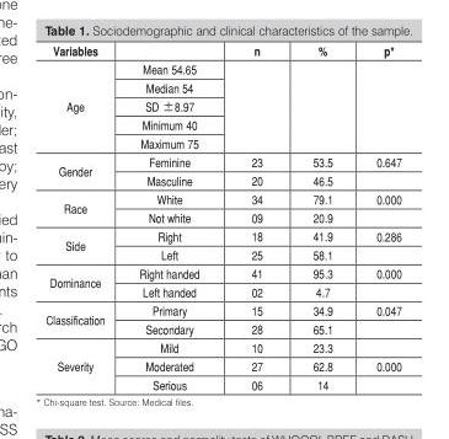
<table><thead><tr><td>Variables</td><td></td><td>n</td><td>%</td><td>p*</td></tr></thead><tbody><tr><td rowspan="5">Age</td><td>Mean 54.65</td><td rowspan="5"></td><td rowspan="5"></td><td rowspan="5"></td></tr><tr><td>Median 54</td></tr><tr><td>SD ±8.97</td></tr><tr><td>Minimum 40</td></tr><tr><td>Maximum 75</td></tr><tr><td rowspan="2">Gender</td><td>Feminine</td><td>23</td><td>53.5</td><td>0.647</td></tr><tr><td>Masculine</td><td>20</td><td>46.5</td><td></td></tr><tr><td rowspan="2">Race</td><td>White</td><td>34</td><td>79.1</td><td>0.000</td></tr><tr><td>Not white</td><td>09</td><td>20.9</td><td></td></tr><tr><td rowspan="2">Side</td><td>Right</td><td>18</td><td>41.9</td><td>0.286</td></tr><tr><td>Left</td><td>25</td><td>58.1</td><td></td></tr><tr><td rowspan="2">Dominance</td><td>Right handed</td><td>41</td><td>95.3</td><td>0.000</td></tr><tr><td>Left handed</td><td>02</td><td>4.7</td><td></td></tr><tr><td rowspan="2">Classification</td><td>Primary</td><td>15</td><td>34.9</td><td>0.047</td></tr><tr><td>Secondary</td><td>28</td><td>65.1</td><td></td></tr><tr><td rowspan="3">Severity</td><td>Mild</td><td>10</td><td>23.3</td><td></td></tr><tr><td>Moderated</td><td>27</td><td>62.8</td><td>0.000</td></tr><tr><td>Serious</td><td>06</td><td>14</td><td></td></tr></tbody></table>